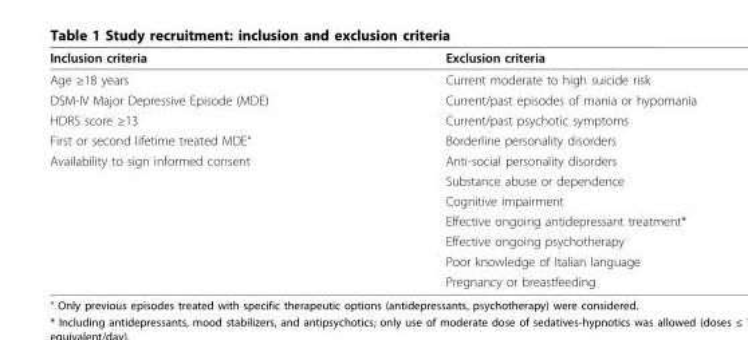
<table><thead><tr><td>Inclusion criteria</td><td>Exclusion criteria</td></tr></thead><tbody><tr><td>Age ≥18 years</td><td>Current moderate to high suicide risk</td></tr><tr><td>DSM-IV Major Depressive Episode (MDE)</td><td>Current/past episodes of mania or hypomania</td></tr><tr><td>HDRS score ≥13</td><td>Current/past psychotic symptoms</td></tr><tr><td>First or second lifetime treated MDE°</td><td>Borderline personality disorders</td></tr><tr><td rowspan="7">Availability to sign informed consent</td><td>Anti-social personality disorders</td></tr><tr><td>Substance abuse or dependence</td></tr><tr><td>Cognitive impairment</td></tr><tr><td>Effective ongoing antidepressant treatment*</td></tr><tr><td>Effective ongoing psychotherapy</td></tr><tr><td>Poor knowledge of Italian language</td></tr><tr><td>Pregnancy or breastfeeding</td></tr></tbody></table>